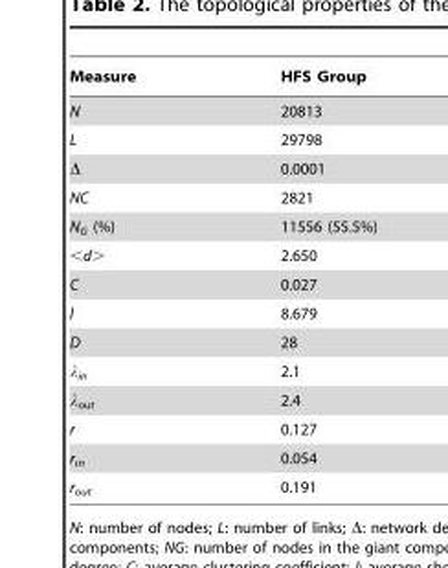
<table><thead><tr><td>Measure</td><td>HFS Group</td></tr></thead><tbody><tr><td>N</td><td>20813</td></tr><tr><td>L</td><td>29798</td></tr><tr><td>Δ</td><td>0.0001</td></tr><tr><td>NC</td><td>2821</td></tr><tr><td>N<sub>G</sub> (%)</td><td>11556 (55.5%)</td></tr><tr><td>&lt;d&gt;</td><td>2.650</td></tr><tr><td>C</td><td>0.027</td></tr><tr><td>l</td><td>8.679</td></tr><tr><td>D</td><td>28</td></tr><tr><td>λ<sub>in</sub></td><td>2.1</td></tr><tr><td>λ<sub>out</sub></td><td>2.4</td></tr><tr><td>r</td><td>0.127</td></tr><tr><td>r<sub>in</sub></td><td>0.054</td></tr><tr><td>r<sub>out</sub></td><td>0.191</td></tr></tbody></table>